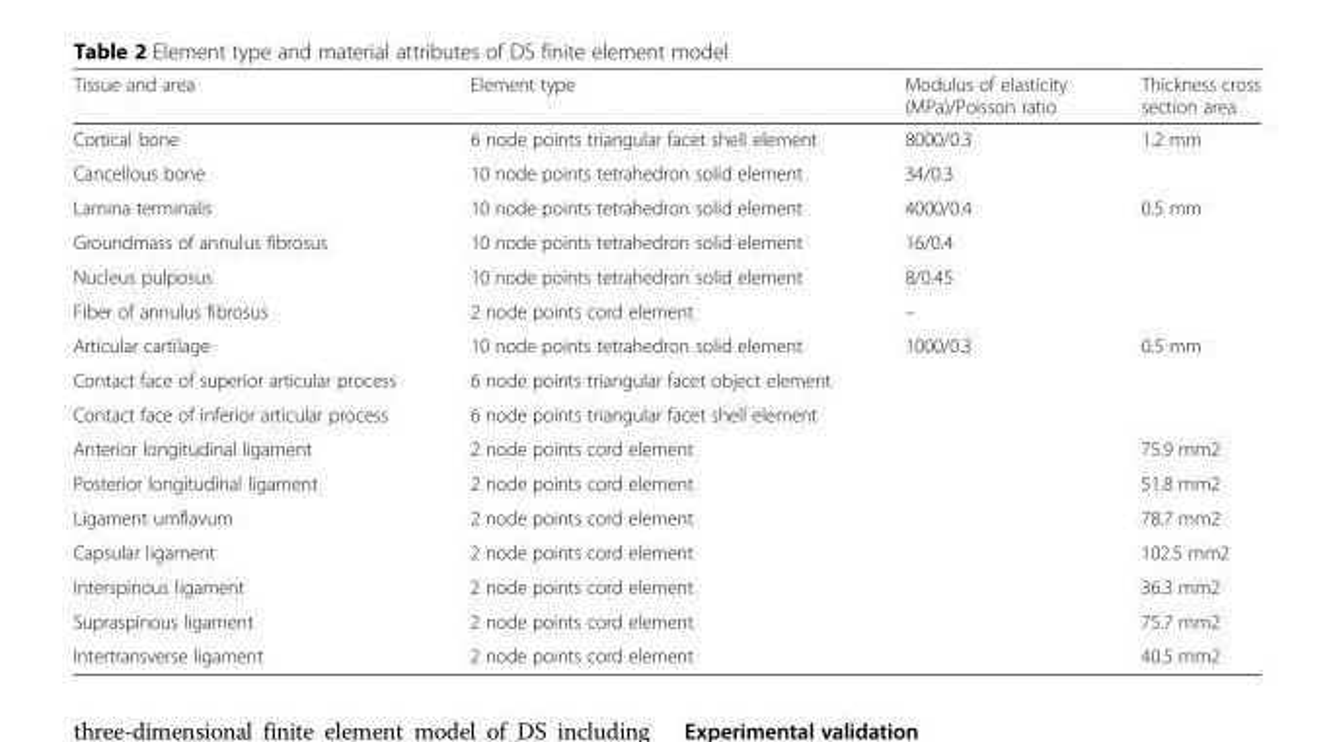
<table><thead><tr><td>Tissue and area</td><td>Element type</td><td>Modulus of elasticity (MPa)/Poisson ratio</td><td>Thickness cross section area</td></tr></thead><tbody><tr><td>Cortical bone</td><td>6 node points triangular facet shell element</td><td>8000/0.3</td><td>1.2 mm</td></tr><tr><td>Cancellous bone</td><td>10 node points tetrahedron solid element</td><td>34/0.3</td><td></td></tr><tr><td>Lamina terminalis</td><td>10 node points tetrahedron solid element</td><td>4000/0.4</td><td>0.5 mm</td></tr><tr><td>Groundmass of annulus fibrosus</td><td>10 node points tetrahedron solid element</td><td>16/0.4</td><td></td></tr><tr><td>Nucleus pulposus</td><td>10 node points tetrahedron solid element</td><td>8/0.45</td><td></td></tr><tr><td>Fiber of annulus fibrosus</td><td>2 node points cord element</td><td>–</td><td></td></tr><tr><td>Articular cartilage</td><td>10 node points tetrahedron solid element</td><td>1000/0.3</td><td>0.5 mm</td></tr><tr><td>Contact face of superior articular process</td><td>6 node points triangular facet object element</td><td></td><td></td></tr><tr><td>Contact face of inferior articular process</td><td>6 node points triangular facet shell element</td><td></td><td></td></tr><tr><td>Anterior longitudinal ligament</td><td>2 node points cord element</td><td></td><td>75.9 mm2</td></tr><tr><td>Posterior longitudinal ligament</td><td>2 node points cord element</td><td></td><td>51.8 mm2</td></tr><tr><td>Ligament umflavum</td><td>2 node points cord element</td><td></td><td>78.7 mm2</td></tr><tr><td>Capsular ligament</td><td>2 node points cord element</td><td></td><td>102.5 mm2</td></tr><tr><td>Interspinous ligament</td><td>2 node points cord element</td><td></td><td>36.3 mm2</td></tr><tr><td>Supraspinous ligament</td><td>2 node points cord element</td><td></td><td>75.7 mm2</td></tr><tr><td>Intertransverse ligament</td><td>2 node points cord element</td><td></td><td>40.5 mm2</td></tr></tbody></table>